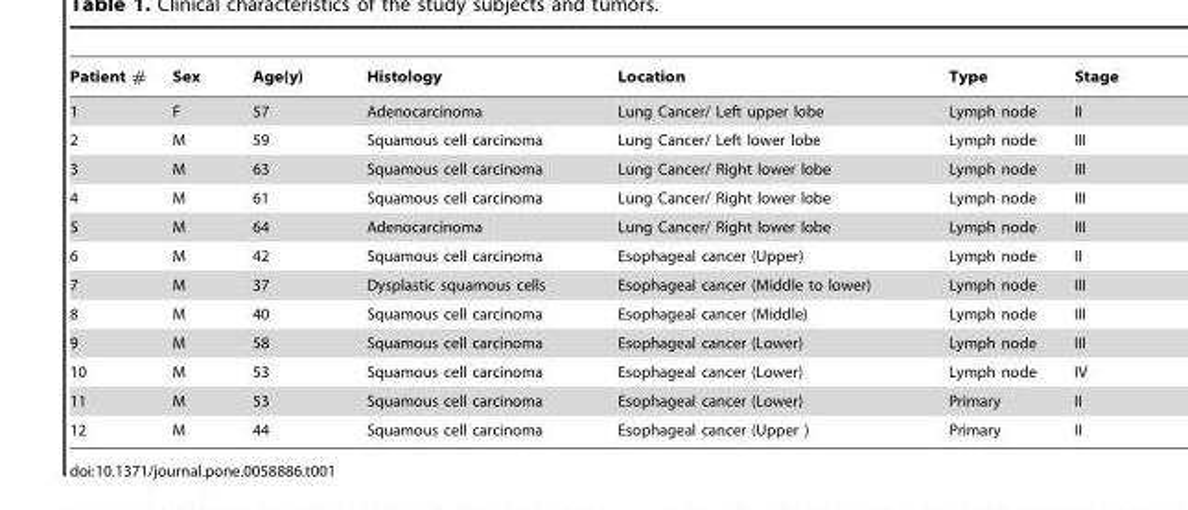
<table><thead><tr><td>Patient #</td><td>Sex</td><td>Age(y)</td><td>Histology</td><td>Location</td><td>Type</td><td>Stage</td></tr></thead><tbody><tr><td>1</td><td>F</td><td>57</td><td>Adenocarcinoma</td><td>Lung Cancer/ Left upper lobe</td><td>Lymph node</td><td>II</td></tr><tr><td>2</td><td>M</td><td>59</td><td>Squamous cell carcinoma</td><td>Lung Cancer/ Left lower lobe</td><td>Lymph node</td><td>III</td></tr><tr><td>3</td><td>M</td><td>63</td><td>Squamous cell carcinoma</td><td>Lung Cancer/ Right lower lobe</td><td>Lymph node</td><td>III</td></tr><tr><td>4</td><td>M</td><td>61</td><td>Squamous cell carcinoma</td><td>Lung Cancer/ Right lower lobe</td><td>Lymph node</td><td>III</td></tr><tr><td>5</td><td>M</td><td>64</td><td>Adenocarcinoma</td><td>Lung Cancer/ Right lower lobe</td><td>Lymph node</td><td>III</td></tr><tr><td>6</td><td>M</td><td>42</td><td>Squamous cell carcinoma</td><td>Esophageal cancer (Upper)</td><td>Lymph node</td><td>II</td></tr><tr><td>7</td><td>M</td><td>37</td><td>Dysplastic squamous cells</td><td>Esophageal cancer (Middle to lower)</td><td>Lymph node</td><td>III</td></tr><tr><td>8</td><td>M</td><td>40</td><td>Squamous cell carcinoma</td><td>Esophageal cancer (Middle)</td><td>Lymph node</td><td>III</td></tr><tr><td>9</td><td>M</td><td>58</td><td>Squamous cell carcinoma</td><td>Esophageal cancer (Lower)</td><td>Lymph node</td><td>III</td></tr><tr><td>10</td><td>M</td><td>53</td><td>Squamous cell carcinoma</td><td>Esophageal cancer (Lower)</td><td>Lymph node</td><td>IV</td></tr><tr><td>11</td><td>M</td><td>53</td><td>Squamous cell carcinoma</td><td>Esophageal cancer (Lower)</td><td>Primary</td><td>II</td></tr><tr><td>12</td><td>M</td><td>44</td><td>Squamous cell carcinoma</td><td>Esophageal cancer (Upper )</td><td>Primary</td><td>II</td></tr></tbody></table>